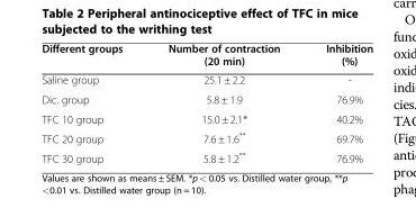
<table><thead><tr><td>Different groups</td><td>Number of contraction (20 min)</td><td>Inhibition (%)</td></tr></thead><tbody><tr><td>Saline group</td><td>25.1 ± 2.2</td><td>-</td></tr><tr><td>Dic. group</td><td>5.8 ± 1.9</td><td>76.9%</td></tr><tr><td>TFC 10 group</td><td>15.0 ± 2.1*</td><td>40.2%</td></tr><tr><td>TFC 20 group</td><td>7.6 ± 1.6**</td><td>69.7%</td></tr><tr><td>TFC 30 group</td><td>5.8 ± 1.2**</td><td>76.9%</td></tr></tbody></table>